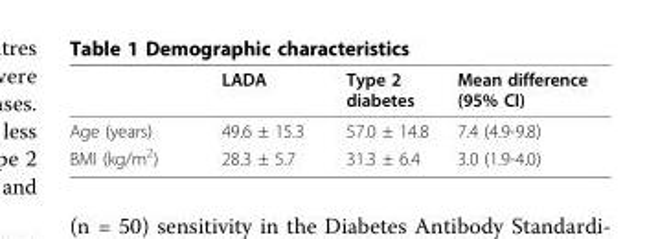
<table><thead><tr><td></td><td>LADA</td><td>Type 2 diabetes</td><td>Mean difference (95% CI)</td></tr></thead><tbody><tr><td>Age (years)</td><td>49.6 ± 15.3</td><td>57.0 ± 14.8</td><td>7.4 (4.9-9.8)</td></tr><tr><td>BMI (kg/m<sup>2</sup>)</td><td>28.3 ± 5.7</td><td>31.3 ± 6.4</td><td>3.0 (1.9-4.0)</td></tr></tbody></table>